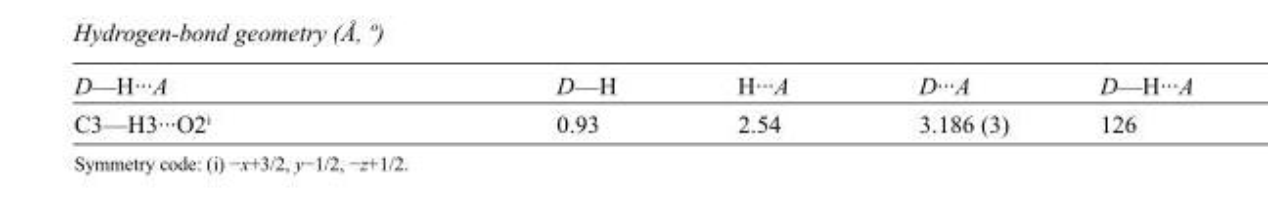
<table><tbody><tr><td>D—H···A</td><td>D—H</td><td>H···A</td><td>D···A</td><td>D—H···A</td></tr><tr><td>C3—H3···O2<sup>i</sup></td><td>0.93</td><td>2.54</td><td>3.186 (3)</td><td>126</td></tr></tbody></table>